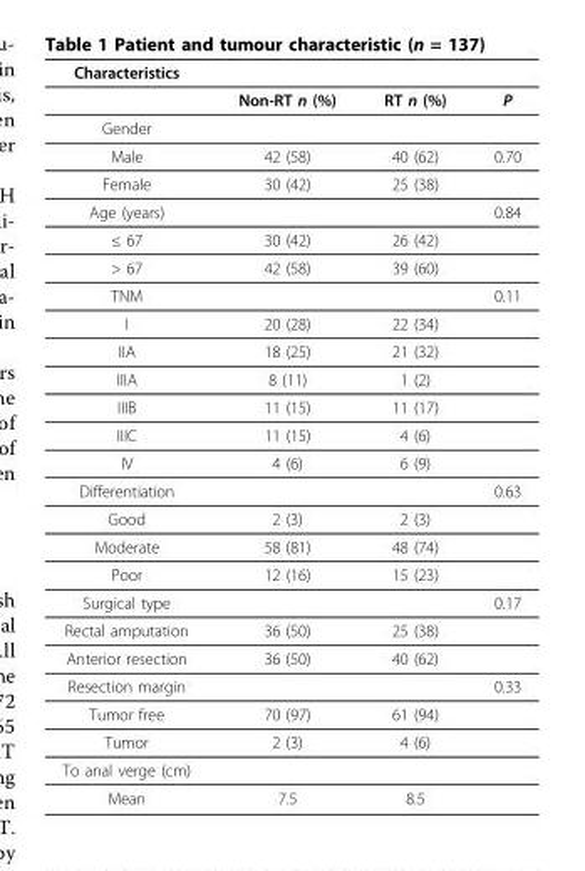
<table><thead><tr><td>Characteristics</td><td></td><td></td><td></td></tr></thead><tbody><tr><td></td><td>Non-RT n (%)</td><td>RT n (%)</td><td>P</td></tr><tr><td colspan="4">Gender</td></tr><tr><td>Male</td><td>42 (58)</td><td>40 (62)</td><td>0.70</td></tr><tr><td>Female</td><td>30 (42)</td><td>25 (38)</td><td></td></tr><tr><td>Age (years)</td><td></td><td></td><td>0.84</td></tr><tr><td>≤ 67</td><td>30 (42)</td><td>26 (42)</td><td></td></tr><tr><td>&gt; 67</td><td>42 (58)</td><td>39 (60)</td><td></td></tr><tr><td>TNM</td><td></td><td></td><td>0.11</td></tr><tr><td>I</td><td>20 (28)</td><td>22 (34)</td><td></td></tr><tr><td>IIA</td><td>18 (25)</td><td>21 (32)</td><td></td></tr><tr><td>IIIA</td><td>8 (11)</td><td>1 (2)</td><td></td></tr><tr><td>IIIB</td><td>11 (15)</td><td>11 (17)</td><td></td></tr><tr><td>IIIC</td><td>11 (15)</td><td>4 (6)</td><td></td></tr><tr><td>IV</td><td>4 (6)</td><td>6 (9)</td><td></td></tr><tr><td>Differentiation</td><td></td><td></td><td>0.63</td></tr><tr><td>Good</td><td>2 (3)</td><td>2 (3)</td><td></td></tr><tr><td>Moderate</td><td>58 (81)</td><td>48 (74)</td><td></td></tr><tr><td>Poor</td><td>12 (16)</td><td>15 (23)</td><td></td></tr><tr><td>Surgical type</td><td></td><td></td><td>0.17</td></tr><tr><td>Rectal amputation</td><td>36 (50)</td><td>25 (38)</td><td></td></tr><tr><td>Anterior resection</td><td>36 (50)</td><td>40 (62)</td><td></td></tr><tr><td>Resection margin</td><td></td><td></td><td>0.33</td></tr><tr><td>Tumor free</td><td>70 (97)</td><td>61 (94)</td><td></td></tr><tr><td>Tumor</td><td>2 (3)</td><td>4 (6)</td><td></td></tr><tr><td colspan="4">To anal verge (cm)</td></tr><tr><td>Mean</td><td>7.5</td><td>8.5</td><td></td></tr></tbody></table>